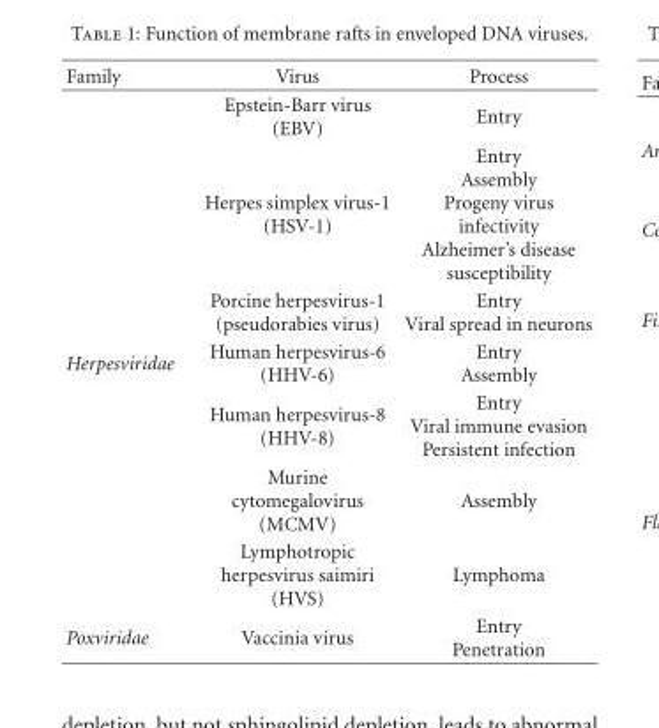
<table><thead><tr><td>Family</td><td>Virus</td><td>Process</td></tr></thead><tbody><tr><td></td><td>Epstein-Barr virus (EBV)</td><td>Entry</td></tr><tr><td></td><td>Herpes simplex virus-1 (HSV-1)</td><td>Entry Assembly Progeny virus infectivity Alzheimer’s disease susceptibility</td></tr><tr><td></td><td>Porcine herpesvirus-1 (pseudorabies virus)</td><td>Entry Viral spread in neurons</td></tr><tr><td rowspan="4">Herpesviridae</td><td>Human herpesvirus-6 (HHV-6)</td><td>Entry Assembly</td></tr><tr><td>Human herpesvirus-8 (HHV-8)</td><td>Entry Viral immune evasion Persistent infection</td></tr><tr><td>Murine cytomegalovirus (MCMV)</td><td>Assembly</td></tr><tr><td>Lymphotropic herpesvirus saimiri (HVS)</td><td>Lymphoma</td></tr><tr><td>Poxviridae</td><td>Vaccinia virus</td><td>Entry Penetration</td></tr></tbody></table>